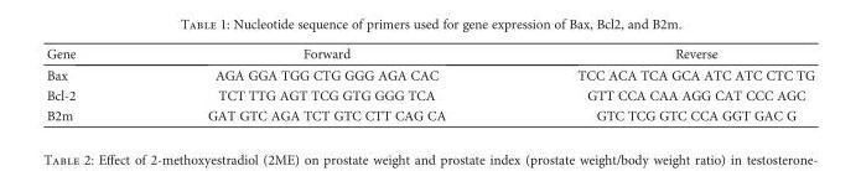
<table><thead><tr><td>Gene</td><td>Forward</td><td>Reverse</td></tr></thead><tbody><tr><td>Bax</td><td>AGA GGA TGG CTG GGG AGA CAC</td><td>TCC ACA TCA GCA ATC ATC CTC TG</td></tr><tr><td>Bcl-2</td><td>TCT TTG AGT TCG GTG GGG TCA</td><td>GTT CCA CAA AGG CAT CCC AGC</td></tr><tr><td>B2m</td><td>GAT GTC AGA TCT GTC CTT CAG CA</td><td>GTC TCG GTC CCA GGT GAC G</td></tr></tbody></table>